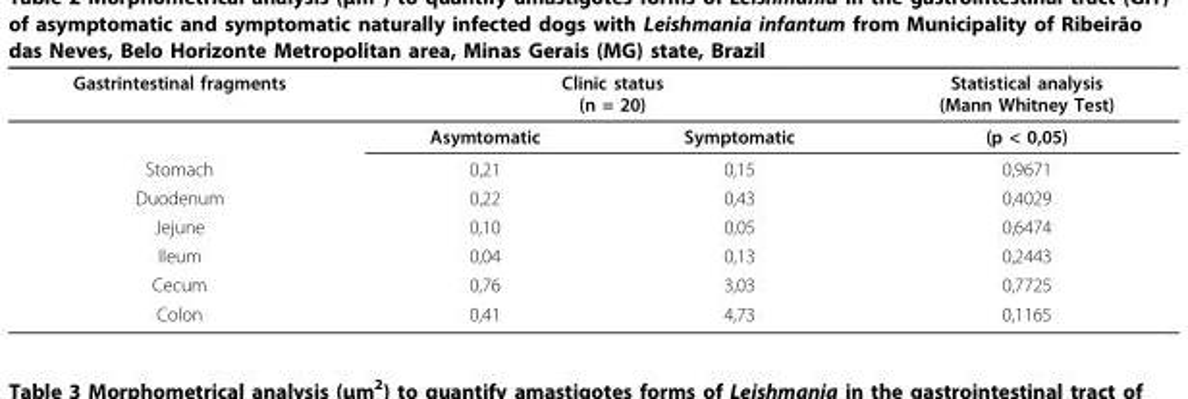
<table><tbody><tr><td rowspan="2">Gastrintestinal fragments</td><td colspan="2">Clinic status (n = 20)</td><td>Statistical analysis (Mann Whitney Test)</td></tr><tr><td>Asymtomatic</td><td>Symptomatic</td><td>(p &lt; 0,05)</td></tr><tr><td>Stomach</td><td>0,21</td><td>0,15</td><td>0,9671</td></tr><tr><td>Duodenum</td><td>0,22</td><td>0,43</td><td>0,4029</td></tr><tr><td>Jejune</td><td>0,10</td><td>0,05</td><td>0,6474</td></tr><tr><td>Ileum</td><td>0,04</td><td>0,13</td><td>0,2443</td></tr><tr><td>Cecum</td><td>0,76</td><td>3,03</td><td>0,7725</td></tr><tr><td>Colon</td><td>0,41</td><td>4,73</td><td>0,1165</td></tr></tbody></table>